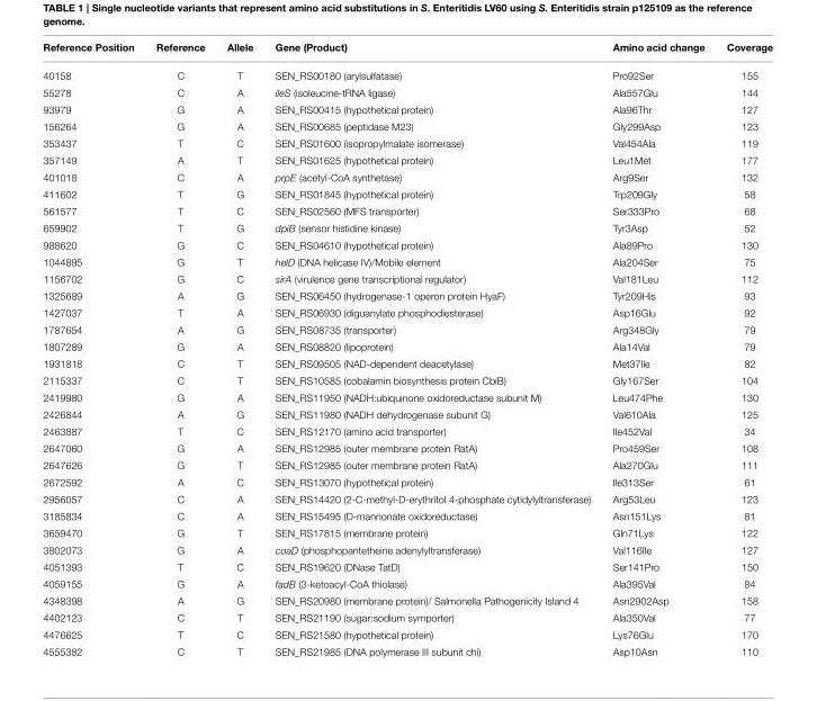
<table><thead><tr><td>Reference Position</td><td>Reference</td><td>Allele</td><td>Gene (Product)</td><td>Amino acid change</td><td>Coverage</td></tr></thead><tbody><tr><td>40158</td><td>C</td><td>T</td><td>SEN_RS00180 (arylsulfatase)</td><td>Pro92Ser</td><td>155</td></tr><tr><td>55278</td><td>C</td><td>A</td><td>ileS (isoleucine-tRNA ligase)</td><td>Ala557Glu</td><td>144</td></tr><tr><td>93979</td><td>G</td><td>A</td><td>SEN_RS00415 (hypothetical protein)</td><td>Ala96Thr</td><td>127</td></tr><tr><td>156264</td><td>G</td><td>A</td><td>SEN_RS00685 (peptidase M23)</td><td>Gly299Asp</td><td>123</td></tr><tr><td>353437</td><td>T</td><td>C</td><td>SEN_RS01600 (isopropylmalate isomerase)</td><td>Val454Ala</td><td>119</td></tr><tr><td>357149</td><td>A</td><td>T</td><td>SEN_RS01625 (hypothetical protein)</td><td>Leu1Met</td><td>177</td></tr><tr><td>401018</td><td>C</td><td>A</td><td>prpE (acetyl-CoA synthetase)</td><td>Arg9Ser</td><td>132</td></tr><tr><td>411602</td><td>T</td><td>G</td><td>SEN_RS01845 (hypothetical protein)</td><td>Trp209Gly</td><td>58</td></tr><tr><td>561577</td><td>T</td><td>C</td><td>SEN_RS02560 (MFS transporter)</td><td>Ser333Pro</td><td>68</td></tr><tr><td>659902</td><td>T</td><td>G</td><td>dpiB (sensor histidine kinase)</td><td>Tyr3Asp</td><td>52</td></tr><tr><td>988620</td><td>G</td><td>C</td><td>SEN_RS04610 (hypothetical protein)</td><td>Ala89Pro</td><td>130</td></tr><tr><td>1044895</td><td>G</td><td>T</td><td>helD (DNA helicase IV)/Mobile element</td><td>Ala204Ser</td><td>75</td></tr><tr><td>1156702</td><td>G</td><td>C</td><td>sirA (virulence gene transcriptional regulator)</td><td>Val181Leu</td><td>112</td></tr><tr><td>1325689</td><td>A</td><td>G</td><td>SEN_RS06450 (hydrogenase-1 operon protein HyaF)</td><td>Tyr209His</td><td>93</td></tr><tr><td>1427037</td><td>T</td><td>A</td><td>SEN_RS06930 (diguanylate phosphodiesterase)</td><td>Asp16Glu</td><td>92</td></tr><tr><td>1787654</td><td>A</td><td>G</td><td>SEN_RS08735 (transporter)</td><td>Arg348Gly</td><td>79</td></tr><tr><td>1807289</td><td>G</td><td>A</td><td>SEN_RS08820 (lipoprotein)</td><td>Ala14Val</td><td>79</td></tr><tr><td>1931818</td><td>C</td><td>T</td><td>SEN_RS09505 (NAD-dependent deacetylase)</td><td>Met37Ile</td><td>82</td></tr><tr><td>2115337</td><td>C</td><td>T</td><td>SEN_RS10585 (cobalamin biosynthesis protein CbiB)</td><td>Gly167Ser</td><td>104</td></tr><tr><td>2419980</td><td>G</td><td>A</td><td>SEN_RS11950 (NADH:ubiquinone oxidoreductase subunit M)</td><td>Leu474Phe</td><td>130</td></tr><tr><td>2426844</td><td>A</td><td>G</td><td>SEN_RS11980 (NADH dehydrogenase subunit G)</td><td>Val610Ala</td><td>125</td></tr><tr><td>2463887</td><td>T</td><td>C</td><td>SEN_RS12170 (amino acid transporter)</td><td>Ile452Val</td><td>34</td></tr><tr><td>2647060</td><td>G</td><td>A</td><td>SEN_RS12985 (outer membrane protein RatA)</td><td>Pro459Ser</td><td>108</td></tr><tr><td>2647626</td><td>G</td><td>T</td><td>SEN_RS12985 (outer membrane protein RatA)</td><td>Ala270Glu</td><td>111</td></tr><tr><td>2672592</td><td>A</td><td>C</td><td>SEN_RS13070 (hypothetical protein)</td><td>Ile313Ser</td><td>61</td></tr><tr><td>2956057</td><td>C</td><td>A</td><td>SEN_RS14420 (2-C-methyl-D-erythritol 4-phosphate cytidylyltransferase)</td><td>Arg53Leu</td><td>123</td></tr><tr><td>3185834</td><td>C</td><td>A</td><td>SEN_RS15495 (D-mannonate oxidoreductase)</td><td>Asn151Lys</td><td>81</td></tr><tr><td>3659470</td><td>G</td><td>T</td><td>SEN_RS17815 (membrane protein)</td><td>Gln71Lys</td><td>122</td></tr><tr><td>3802073</td><td>G</td><td>A</td><td>coaD (phosphopantetheine adenylyltransferase)</td><td>Val116Ile</td><td>127</td></tr><tr><td>4051393</td><td>T</td><td>C</td><td>SEN_RS19620 (DNase TatD)</td><td>Ser141Pro</td><td>150</td></tr><tr><td>4059155</td><td>G</td><td>A</td><td>fadB (3-ketoacyl-CoA thiolase)</td><td>Ala395Val</td><td>84</td></tr><tr><td>4348398</td><td>A</td><td>G</td><td>SEN_RS20980 (membrane protein)/ Salmonella Pathogenicity Island 4</td><td>Asn2902Asp</td><td>158</td></tr><tr><td>4402123</td><td>C</td><td>T</td><td>SEN_RS21190 (sugar:sodium symporter)</td><td>Ala350Val</td><td>77</td></tr><tr><td>4476625</td><td>T</td><td>C</td><td>SEN_RS21580 (hypothetical protein)</td><td>Lys76Glu</td><td>170</td></tr><tr><td>4555382</td><td>C</td><td>T</td><td>SEN_RS21985 (DNA polymerase III subunit chi)</td><td>Asp10Asn</td><td>110</td></tr></tbody></table>